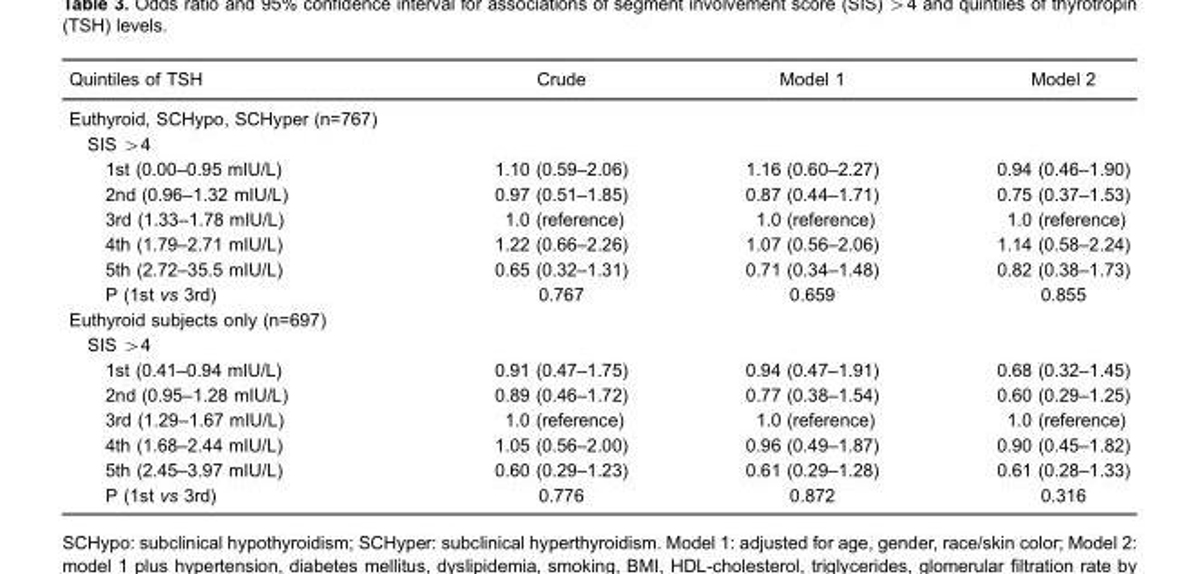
<table><thead><tr><td>Quintiles of TSH</td><td>Crude</td><td>Model 1</td><td>Model 2</td></tr></thead><tbody><tr><td colspan="4">Euthyroid, SCHypo, SCHyper (n=767)</td></tr><tr><td colspan="4">SIS &gt;4</td></tr><tr><td>1st (0.00–0.95 mIU/L)</td><td>1.10 (0.59–2.06)</td><td>1.16 (0.60–2.27)</td><td>0.94 (0.46–1.90)</td></tr><tr><td>2nd (0.96–1.32 mIU/L)</td><td>0.97 (0.51–1.85)</td><td>0.87 (0.44–1.71)</td><td>0.75 (0.37–1.53)</td></tr><tr><td>3rd (1.33–1.78 mIU/L)</td><td>1.0 (reference)</td><td>1.0 (reference)</td><td>1.0 (reference)</td></tr><tr><td>4th (1.79–2.71 mIU/L)</td><td>1.22 (0.66–2.26)</td><td>1.07 (0.56–2.06)</td><td>1.14 (0.58–2.24)</td></tr><tr><td>5th (2.72–35.5 mIU/L)</td><td>0.65 (0.32–1.31)</td><td>0.71 (0.34–1.48)</td><td>0.82 (0.38–1.73)</td></tr><tr><td>P (1st vs 3rd)</td><td>0.767</td><td>0.659</td><td>0.855</td></tr><tr><td colspan="4">Euthyroid subjects only (n=697)</td></tr><tr><td colspan="4">SIS &gt;4</td></tr><tr><td>1st (0.41–0.94 mIU/L)</td><td>0.91 (0.47–1.75)</td><td>0.94 (0.47–1.91)</td><td>0.68 (0.32–1.45)</td></tr><tr><td>2nd (0.95–1.28 mIU/L)</td><td>0.89 (0.46–1.72)</td><td>0.77 (0.38–1.54)</td><td>0.60 (0.29–1.25)</td></tr><tr><td>3rd (1.29–1.67 mIU/L)</td><td>1.0 (reference)</td><td>1.0 (reference)</td><td>1.0 (reference)</td></tr><tr><td>4th (1.68–2.44 mIU/L)</td><td>1.05 (0.56–2.00)</td><td>0.96 (0.49–1.87)</td><td>0.90 (0.45–1.82)</td></tr><tr><td>5th (2.45–3.97 mIU/L)</td><td>0.60 (0.29–1.23)</td><td>0.61 (0.29–1.28)</td><td>0.61 (0.28–1.33)</td></tr><tr><td>P (1st vs 3rd)</td><td>0.776</td><td>0.872</td><td>0.316</td></tr></tbody></table>